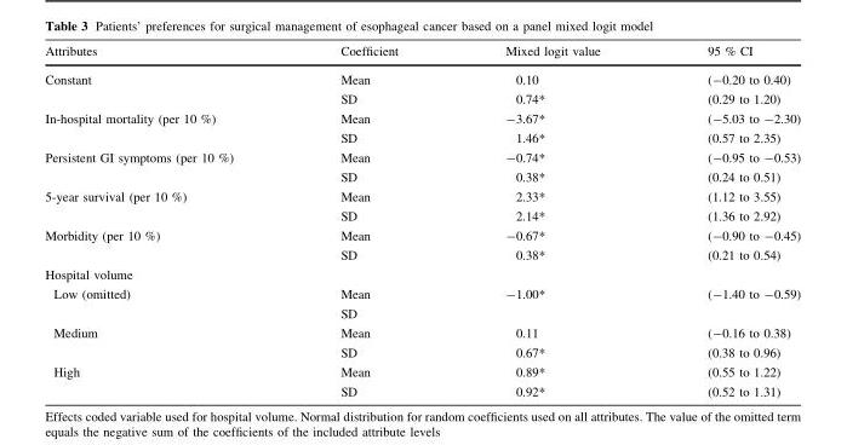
<table><thead><tr><td>Attributes</td><td>Coefficient</td><td>Mixed logit value</td><td>95 % CI</td></tr></thead><tbody><tr><td rowspan="2">Constant</td><td>Mean</td><td>0.10</td><td>(-0.20 to 0.40)</td></tr><tr><td>SD</td><td>0.74*</td><td>(0.29 to 1.20)</td></tr><tr><td rowspan="2">In-hospital mortality (per 10 %)</td><td>Mean</td><td>-3.67*</td><td>(-5.03 to -2.30)</td></tr><tr><td>SD</td><td>1.46*</td><td>(0.57 to 2.35)</td></tr><tr><td rowspan="2">Persistent GI symptoms (per 10 %)</td><td>Mean</td><td>-0.74*</td><td>(-0.95 to -0.53)</td></tr><tr><td>SD</td><td>0.38*</td><td>(0.24 to 0.51)</td></tr><tr><td rowspan="2">5-year survival (per 10 %)</td><td>Mean</td><td>2.33*</td><td>(1.12 to 3.55)</td></tr><tr><td>SD</td><td>2.14*</td><td>(1.36 to 2.92)</td></tr><tr><td rowspan="2">Morbidity (per 10 %)</td><td>Mean</td><td>-0.67*</td><td>(-0.90 to -0.45)</td></tr><tr><td>SD</td><td>0.38*</td><td>(0.21 to 0.54)</td></tr><tr><td colspan="4">Hospital volume</td></tr><tr><td rowspan="2">Low (omitted)</td><td>Mean</td><td>-1.00*</td><td>(-1.40 to -0.59)</td></tr><tr><td>SD</td><td></td><td></td></tr><tr><td rowspan="2">Medium</td><td>Mean</td><td>0.11</td><td>(-0.16 to 0.38)</td></tr><tr><td>SD</td><td>0.67*</td><td>(0.38 to 0.96)</td></tr><tr><td rowspan="2">High</td><td>Mean</td><td>0.89*</td><td>(0.55 to 1.22)</td></tr><tr><td>SD</td><td>0.92*</td><td>(0.52 to 1.31)</td></tr></tbody></table>